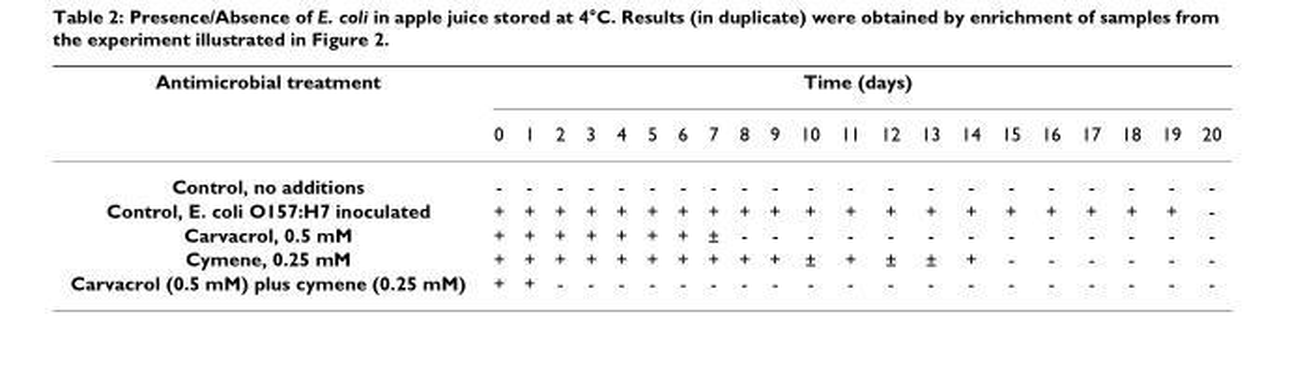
<table><thead><tr><td rowspan="2">Antimicrobial treatment</td><td colspan="21">Time (days)</td></tr><tr><td>0</td><td>1</td><td>2</td><td>3</td><td>4</td><td>5</td><td>6</td><td>7</td><td>8</td><td>9</td><td>10</td><td>11</td><td>12</td><td>13</td><td>14</td><td>15</td><td>16</td><td>17</td><td>18</td><td>19</td><td>20</td></tr></thead><tbody><tr><td>Control, no additions</td><td>-</td><td>-</td><td>-</td><td>-</td><td>-</td><td>-</td><td>-</td><td>-</td><td>-</td><td>-</td><td>-</td><td>-</td><td>-</td><td>-</td><td>-</td><td>-</td><td>-</td><td>-</td><td>-</td><td>-</td><td>-</td></tr><tr><td>Control, E. coli O157:H7 inoculated</td><td>+</td><td>+</td><td>+</td><td>+</td><td>+</td><td>+</td><td>+</td><td>+</td><td>+</td><td>+</td><td>+</td><td>+</td><td>+</td><td>+</td><td>+</td><td>+</td><td>+</td><td>+</td><td>+</td><td>+</td><td>-</td></tr><tr><td>Carvacrol, 0.5 mM</td><td>+</td><td>+</td><td>+</td><td>+</td><td>+</td><td>+</td><td>+</td><td>±</td><td>-</td><td>-</td><td>-</td><td>-</td><td>-</td><td>-</td><td>-</td><td>-</td><td>-</td><td>-</td><td>-</td><td>-</td><td>-</td></tr><tr><td>Cymene, 0.25 mM</td><td>+</td><td>+</td><td>+</td><td>+</td><td>+</td><td>+</td><td>+</td><td>+</td><td>+</td><td>+</td><td>±</td><td>+</td><td>±</td><td>±</td><td>+</td><td>-</td><td>-</td><td>-</td><td>-</td><td>-</td><td>-</td></tr><tr><td>Carvacrol (0.5 mM) plus cymene (0.25 mM)</td><td>+</td><td>+</td><td>-</td><td>-</td><td>-</td><td>-</td><td>-</td><td>-</td><td>-</td><td>-</td><td>-</td><td>-</td><td>-</td><td>-</td><td>-</td><td>-</td><td>-</td><td>-</td><td>-</td><td>-</td><td>-</td></tr></tbody></table>